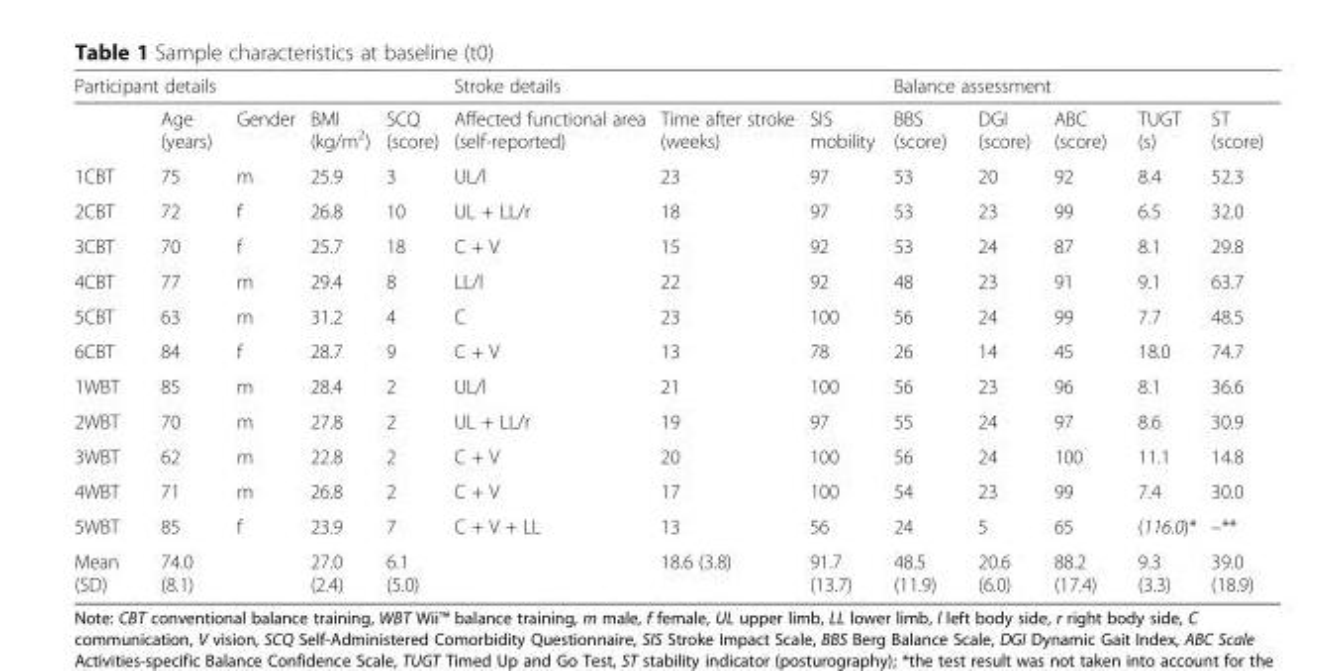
<table><thead><tr><td colspan="5">Participant details</td><td colspan="3">Stroke details</td><td colspan="5">Balance assessment</td></tr><tr><td></td><td>Age (years)</td><td>Gender</td><td>BMI (kg/m<sup>2</sup>)</td><td>SCQ (score)</td><td>Affected functional area (self-reported)</td><td>Time after stroke (weeks)</td><td>SIS mobility</td><td>BBS (score)</td><td>DGI (score)</td><td>ABC (score)</td><td>TUGT (s)</td><td>ST (score)</td></tr></thead><tbody><tr><td>1CBT</td><td>75</td><td>m</td><td>25.9</td><td>3</td><td>UL/l</td><td>23</td><td>97</td><td>53</td><td>20</td><td>92</td><td>8.4</td><td>52.3</td></tr><tr><td>2CBT</td><td>72</td><td>f</td><td>26.8</td><td>10</td><td>UL + LL/r</td><td>18</td><td>97</td><td>53</td><td>23</td><td>99</td><td>6.5</td><td>32.0</td></tr><tr><td>3CBT</td><td>70</td><td>f</td><td>25.7</td><td>18</td><td>C + V</td><td>15</td><td>92</td><td>53</td><td>24</td><td>87</td><td>8.1</td><td>29.8</td></tr><tr><td>4CBT</td><td>77</td><td>m</td><td>29.4</td><td>8</td><td>LL/l</td><td>22</td><td>92</td><td>48</td><td>23</td><td>91</td><td>9.1</td><td>63.7</td></tr><tr><td>5CBT</td><td>63</td><td>m</td><td>31.2</td><td>4</td><td>C</td><td>23</td><td>100</td><td>56</td><td>24</td><td>99</td><td>7.7</td><td>48.5</td></tr><tr><td>6CBT</td><td>84</td><td>f</td><td>28.7</td><td>9</td><td>C + V</td><td>13</td><td>78</td><td>26</td><td>14</td><td>45</td><td>18.0</td><td>74.7</td></tr><tr><td>1WBT</td><td>85</td><td>m</td><td>28.4</td><td>2</td><td>UL/l</td><td>21</td><td>100</td><td>56</td><td>23</td><td>96</td><td>8.1</td><td>36.6</td></tr><tr><td>2WBT</td><td>70</td><td>m</td><td>27.8</td><td>2</td><td>UL + LL/r</td><td>19</td><td>97</td><td>55</td><td>24</td><td>97</td><td>8.6</td><td>30.9</td></tr><tr><td>3WBT</td><td>62</td><td>m</td><td>22.8</td><td>2</td><td>C + V</td><td>20</td><td>100</td><td>56</td><td>24</td><td>100</td><td>11.1</td><td>14.8</td></tr><tr><td>4WBT</td><td>71</td><td>m</td><td>26.8</td><td>2</td><td>C + V</td><td>17</td><td>100</td><td>54</td><td>23</td><td>99</td><td>7.4</td><td>30.0</td></tr><tr><td>5WBT</td><td>85</td><td>f</td><td>23.9</td><td>7</td><td>C + V + LL</td><td>13</td><td>56</td><td>24</td><td>5</td><td>65</td><td>(116.0)*</td><td>–**</td></tr><tr><td>Mean (SD)</td><td>74.0 (8.1)</td><td></td><td>27.0 (2.4)</td><td>6.1 (5.0)</td><td></td><td>18.6 (3.8)</td><td>91.7 (13.7)</td><td>48.5 (11.9)</td><td>20.6 (6.0)</td><td>88.2 (17.4)</td><td>9.3 (3.3)</td><td>39.0 (18.9)</td></tr></tbody></table>